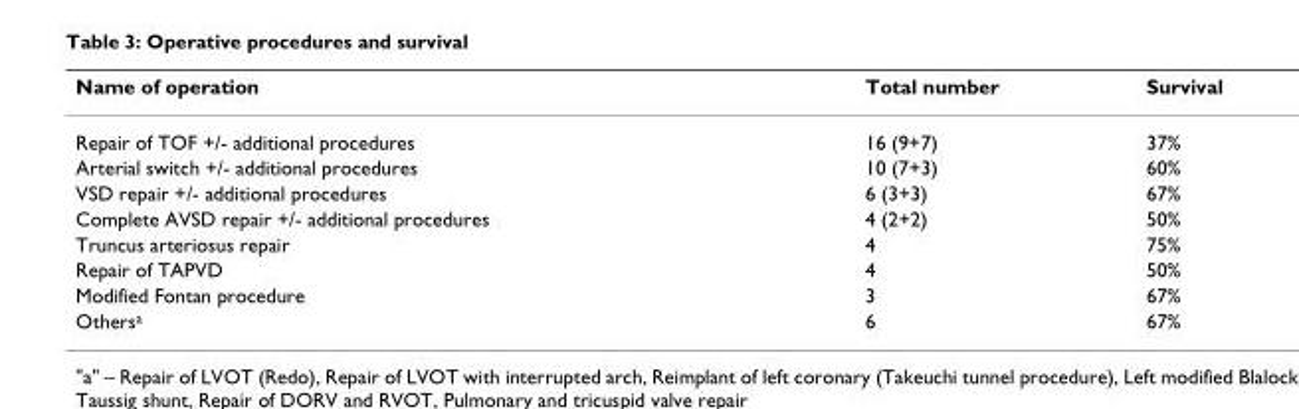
<table><thead><tr><td>Name of operation</td><td>Total number</td><td>Survival</td></tr></thead><tbody><tr><td>Repair of TOF +/- additional procedures</td><td>16 (9+7)</td><td>37%</td></tr><tr><td>Arterial switch +/- additional procedures</td><td>10 (7+3)</td><td>60%</td></tr><tr><td>VSD repair +/- additional procedures</td><td>6 (3+3)</td><td>67%</td></tr><tr><td>Complete AVSD repair +/- additional procedures</td><td>4 (2+2)</td><td>50%</td></tr><tr><td>Truncus arteriosus repair</td><td>4</td><td>75%</td></tr><tr><td>Repair of TAPVD</td><td>4</td><td>50%</td></tr><tr><td>Modified Fontan procedure</td><td>3</td><td>67%</td></tr><tr><td>Others<sup>a</sup></td><td>6</td><td>67%</td></tr></tbody></table>